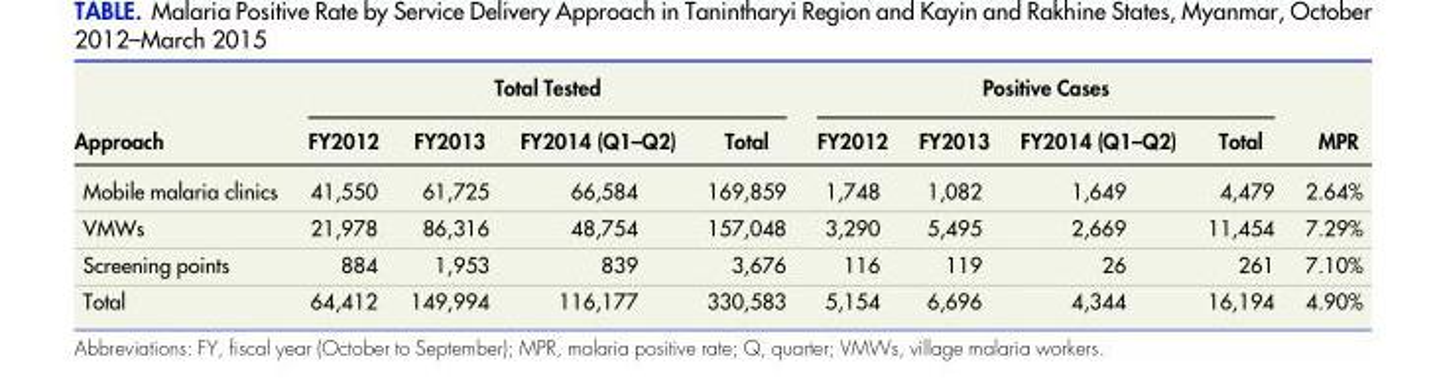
<table><thead><tr><td rowspan="2">Approach</td><td colspan="4">Total Tested</td><td colspan="4">Positive Cases</td><td rowspan="2">MPR</td></tr><tr><td>FY2012</td><td>FY2013</td><td>FY2014 (Q1–Q2)</td><td>Total</td><td>FY2012</td><td>FY2013</td><td>FY2014 (Q1–Q2)</td><td>Total</td></tr></thead><tbody><tr><td>Mobile malaria clinics</td><td>41,550</td><td>61,725</td><td>66,584</td><td>169,859</td><td>1,748</td><td>1,082</td><td>1,649</td><td>4,479</td><td>2.64%</td></tr><tr><td>VMWs</td><td>21,978</td><td>86,316</td><td>48,754</td><td>157,048</td><td>3,290</td><td>5,495</td><td>2,669</td><td>11,454</td><td>7.29%</td></tr><tr><td>Screening points</td><td>884</td><td>1,953</td><td>839</td><td>3,676</td><td>116</td><td>119</td><td>26</td><td>261</td><td>7.10%</td></tr><tr><td>Total</td><td>64,412</td><td>149,994</td><td>116,177</td><td>330,583</td><td>5,154</td><td>6,696</td><td>4,344</td><td>16,194</td><td>4.90%</td></tr></tbody></table>